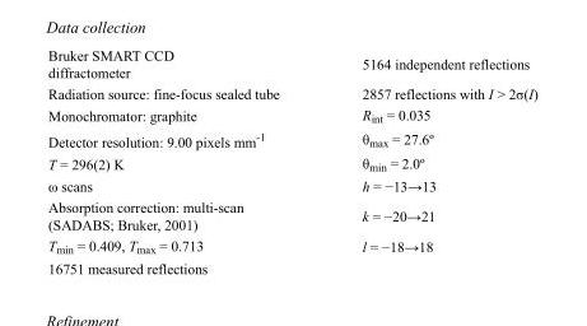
<table><tbody><tr><td>Bruker SMART CCD diffractometer</td><td>5164 independent reflections</td></tr><tr><td>Radiation source: fine-focus sealed tube</td><td>2857 reflections with I &gt; 2σ(I)</td></tr><tr><td>Monochromator: graphite</td><td>R<sub>int</sub> = 0.035</td></tr><tr><td>Detector resolution: 9.00 pixels mm<sup>-1</sup></td><td>θ<sub>max</sub> = 27.6º</td></tr><tr><td>T = 296(2) K</td><td>θ<sub>min</sub> = 2.0º</td></tr><tr><td>ω scans</td><td>h = −13→13</td></tr><tr><td>Absorption correction: multi-scan (SADABS; Bruker, 2001)</td><td>k = −20→21</td></tr><tr><td>T<sub>min</sub> = 0.409, T<sub>max</sub> = 0.713</td><td>l = −18→18</td></tr><tr><td>16751 measured reflections</td><td></td></tr></tbody></table>